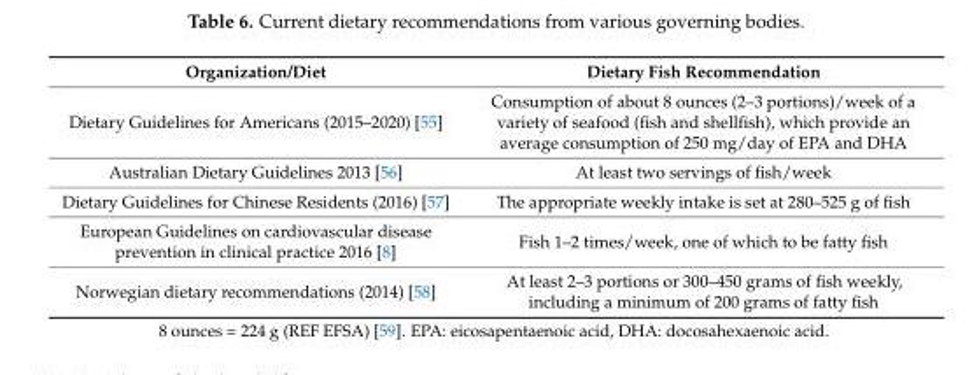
<table><thead><tr><td>Organization/Diet</td><td>Dietary Fish Recommendation</td></tr></thead><tbody><tr><td>Dietary Guidelines for Americans (2015–2020) [55]</td><td>Consumption of about 8 ounces (2–3 portions)/week of a variety of seafood (fish and shellfish), which provide an average consumption of 250 mg/day of EPA and DHA</td></tr><tr><td>Australian Dietary Guidelines 2013 [56]</td><td>At least two servings of fish/week</td></tr><tr><td>Dietary Guidelines for Chinese Residents (2016) [57]</td><td>The appropriate weekly intake is set at 280–525 g of fish</td></tr><tr><td>European Guidelines on cardiovascular disease prevention in clinical practice 2016 [8]</td><td>Fish 1–2 times/week, one of which to be fatty fish</td></tr><tr><td>Norwegian dietary recommendations (2014) [58]</td><td>At least 2–3 portions or 300–450 grams of fish weekly, including a minimum of 200 grams of fatty fish</td></tr></tbody></table>